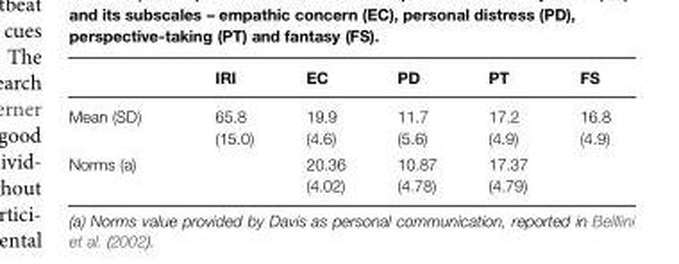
<table><thead><tr><td></td><td>IRI</td><td>EC</td><td>PD</td><td>PT</td><td>FS</td></tr></thead><tbody><tr><td>Mean (SD)</td><td>65.8 (15.0)</td><td>19.9 (4.6)</td><td>11.7 (5.6)</td><td>17.2 (4.9)</td><td>16.8 (4.9)</td></tr><tr><td>Norms (a)</td><td></td><td>20.36 (4.02)</td><td>10.87 (4.78)</td><td>17.37 (4.79)</td><td></td></tr></tbody></table>